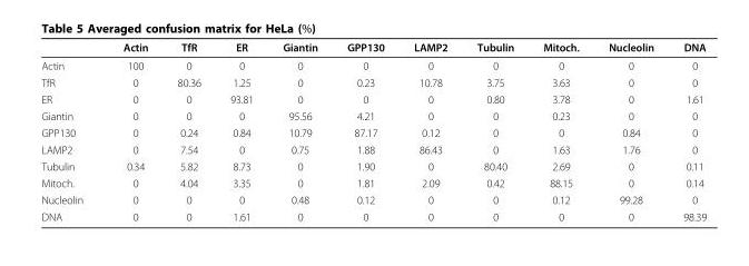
<table><thead><tr><td></td><td>Actin</td><td>TfR</td><td>ER</td><td>Giantin</td><td>GPP130</td><td>LAMP2</td><td>Tubulin</td><td>Mitoch.</td><td>Nucleolin</td><td>DNA</td></tr></thead><tbody><tr><td>Actin</td><td>100</td><td>0</td><td>0</td><td>0</td><td>0</td><td>0</td><td>0</td><td>0</td><td>0</td><td>0</td></tr><tr><td>TfR</td><td>0</td><td>80.36</td><td>1.25</td><td>0</td><td>0.23</td><td>10.78</td><td>3.75</td><td>3.63</td><td>0</td><td>0</td></tr><tr><td>ER</td><td>0</td><td>0</td><td>93.81</td><td>0</td><td>0</td><td>0</td><td>0.80</td><td>3.78</td><td>0</td><td>1.61</td></tr><tr><td>Giantin</td><td>0</td><td>0</td><td>0</td><td>95.56</td><td>4.21</td><td>0</td><td>0</td><td>0.23</td><td>0</td><td>0</td></tr><tr><td>GPP130</td><td>0</td><td>0.24</td><td>0.84</td><td>10.79</td><td>87.17</td><td>0.12</td><td>0</td><td>0</td><td>0.84</td><td>0</td></tr><tr><td>LAMP2</td><td>0</td><td>7.54</td><td>0</td><td>0.75</td><td>1.88</td><td>86.43</td><td>0</td><td>1.63</td><td>1.76</td><td>0</td></tr><tr><td>Tubulin</td><td>0.34</td><td>5.82</td><td>8.73</td><td>0</td><td>1.90</td><td>0</td><td>80.40</td><td>2.69</td><td>0</td><td>0.11</td></tr><tr><td>Mitoch.</td><td>0</td><td>4.04</td><td>3.35</td><td>0</td><td>1.81</td><td>2.09</td><td>0.42</td><td>88.15</td><td>0</td><td>0.14</td></tr><tr><td>Nucleolin</td><td>0</td><td>0</td><td>0</td><td>0.48</td><td>0.12</td><td>0</td><td>0</td><td>0.12</td><td>99.28</td><td>0</td></tr><tr><td>DNA</td><td>0</td><td>0</td><td>1.61</td><td>0</td><td>0</td><td>0</td><td>0</td><td>0</td><td>0</td><td>98.39</td></tr></tbody></table>